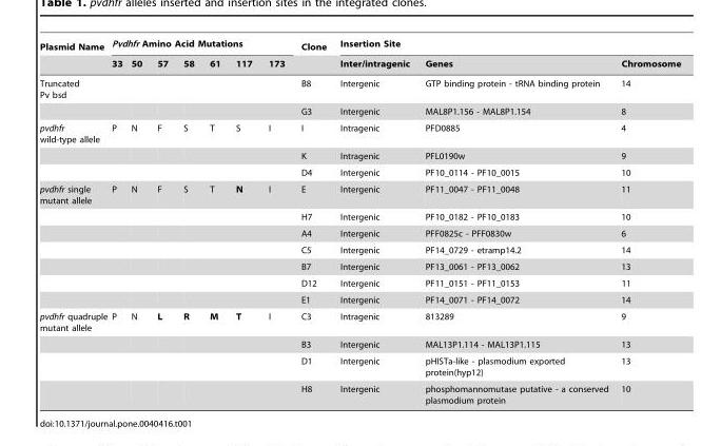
<table><thead><tr><td rowspan="2">Plasmid Name</td><td colspan="7">Pvdhfr Amino Acid Mutations</td><td rowspan="2">Clone</td><td colspan="3">Insertion Site</td></tr><tr><td>33</td><td>50</td><td>57</td><td>58</td><td>61</td><td>117</td><td>173</td><td>Inter/intragenic</td><td>Genes</td><td>Chromosome</td></tr></thead><tbody><tr><td rowspan="2">Truncated Pv bsd</td><td></td><td></td><td></td><td></td><td></td><td></td><td></td><td>B8</td><td>Intergenic</td><td>GTP binding protein - tRNA binding protein</td><td>14</td></tr><tr><td></td><td></td><td></td><td></td><td></td><td></td><td></td><td>G3</td><td>Intergenic</td><td>MAL8P1.156 - MAL8P1.154</td><td>8</td></tr><tr><td rowspan="3">pvdhfr wild-type allele</td><td>P</td><td>N</td><td>F</td><td>S</td><td>T</td><td>S</td><td>I</td><td>I</td><td>Intragenic</td><td>PFD0885</td><td>4</td></tr><tr><td></td><td></td><td></td><td></td><td></td><td></td><td></td><td>K</td><td>Intragenic</td><td>PFL0190w</td><td>9</td></tr><tr><td></td><td></td><td></td><td></td><td></td><td></td><td></td><td>D4</td><td>Intergenic</td><td>PF10_0114 - PF10_0015</td><td>10</td></tr><tr><td rowspan="7">pvdhfr single mutant allele</td><td>P</td><td>N</td><td>F</td><td>S</td><td>T</td><td>N</td><td>I</td><td>E</td><td>Intergenic</td><td>PF11_0047 - PF11_0048</td><td>11</td></tr><tr><td></td><td></td><td></td><td></td><td></td><td></td><td></td><td>H7</td><td>Intergenic</td><td>PF10_0182 - PF10_0183</td><td>10</td></tr><tr><td></td><td></td><td></td><td></td><td></td><td></td><td></td><td>A4</td><td>Intergenic</td><td>PFF0825c - PFF0830w</td><td>6</td></tr><tr><td></td><td></td><td></td><td></td><td></td><td></td><td></td><td>C5</td><td>Intergenic</td><td>PF14_0729 - etramp14.2</td><td>14</td></tr><tr><td></td><td></td><td></td><td></td><td></td><td></td><td></td><td>B7</td><td>Intergenic</td><td>PF13_0061 - PF13_0062</td><td>13</td></tr><tr><td></td><td></td><td></td><td></td><td></td><td></td><td></td><td>D12</td><td>Intergenic</td><td>PF11_0151 - PF11_0153</td><td>11</td></tr><tr><td></td><td></td><td></td><td></td><td></td><td></td><td></td><td>E1</td><td>Intergenic</td><td>PF14_0071 - PF14_0072</td><td>14</td></tr><tr><td rowspan="4">pvdhfr quadruple mutant allele</td><td>P</td><td>N</td><td>L</td><td>R</td><td>M</td><td>T</td><td>I</td><td>C3</td><td>Intragenic</td><td>813289</td><td>9</td></tr><tr><td></td><td></td><td></td><td></td><td></td><td></td><td></td><td>B3</td><td>Intergenic</td><td>MAL13P1.114 - MAL13P1.115</td><td>13</td></tr><tr><td></td><td></td><td></td><td></td><td></td><td></td><td></td><td>D1</td><td>Intergenic</td><td>pHISTa-like - plasmodium exported protein(hyp12)</td><td>13</td></tr><tr><td></td><td></td><td></td><td></td><td></td><td></td><td></td><td>H8</td><td>Intergenic</td><td>phosphomannomutase putative - a conserved plasmodium protein</td><td>10</td></tr></tbody></table>